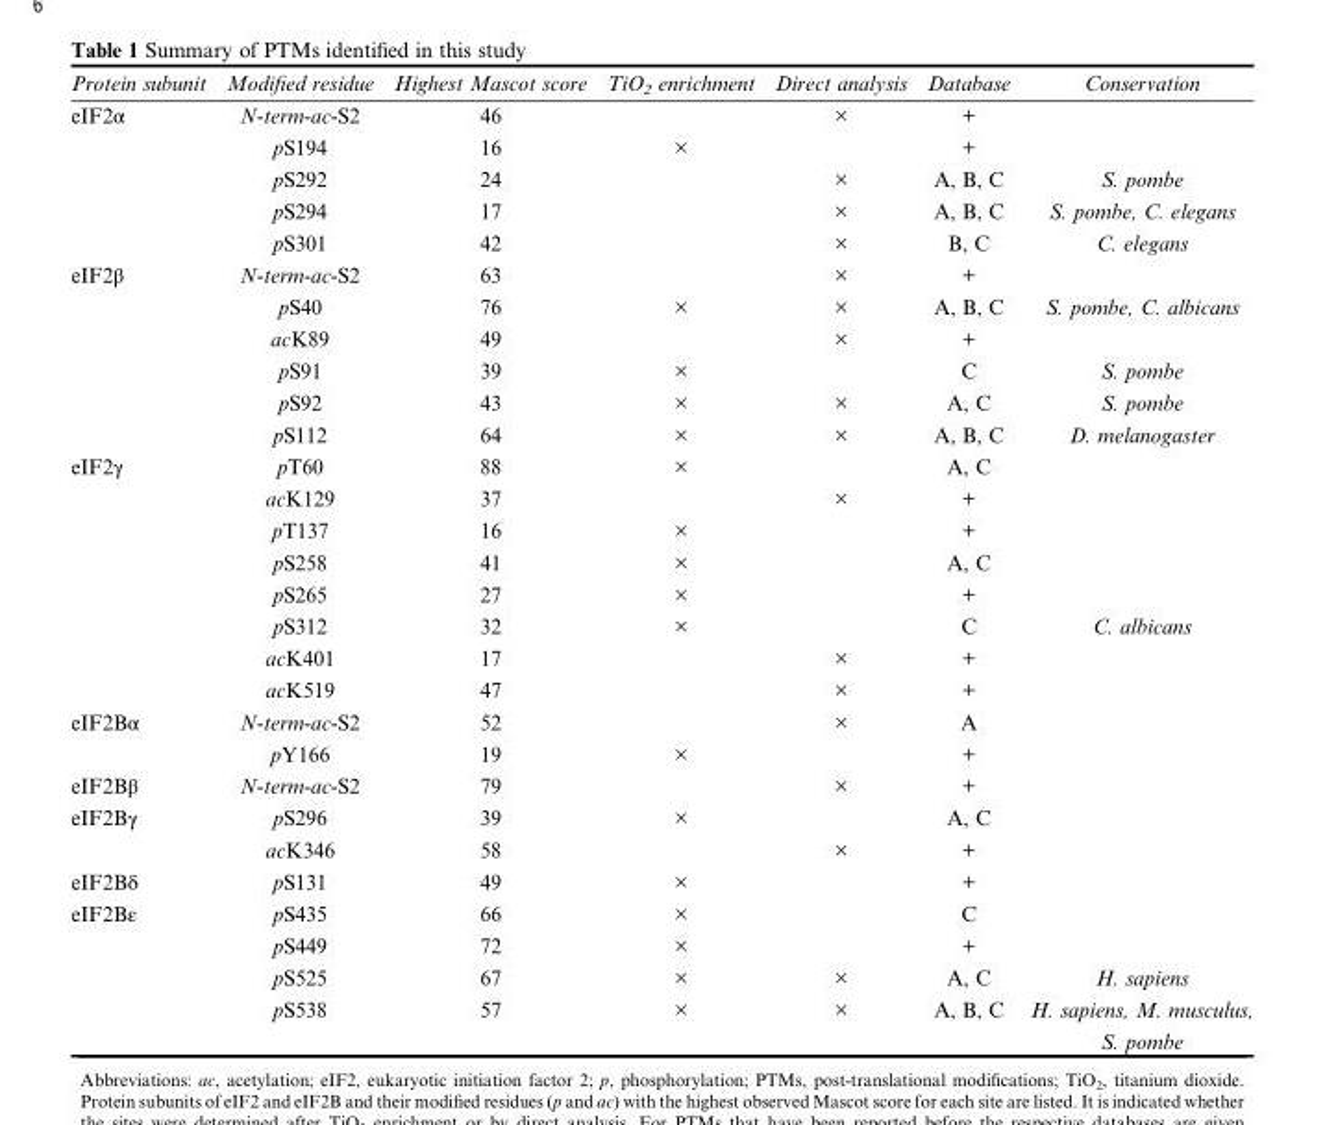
<table><thead><tr><td>Protein subunit</td><td>Modified residue</td><td>Highest Mascot score</td><td>TiO<sub>2</sub> enrichment</td><td>Direct analysis</td><td>Database</td><td>Conservation</td></tr></thead><tbody><tr><td rowspan="5">eIF2α</td><td>N-term-ac-S2</td><td>46</td><td></td><td>×</td><td>+</td><td></td></tr><tr><td>pS194</td><td>16</td><td>×</td><td></td><td>+</td><td></td></tr><tr><td>pS292</td><td>24</td><td></td><td>×</td><td>A, B, C</td><td>S. pombe</td></tr><tr><td>pS294</td><td>17</td><td></td><td>×</td><td>A, B, C</td><td>S. pombe, C. elegans</td></tr><tr><td>pS301</td><td>42</td><td></td><td>×</td><td>B, C</td><td>C. elegans</td></tr><tr><td rowspan="6">eIF2β</td><td>N-term-ac-S2</td><td>63</td><td></td><td>×</td><td>+</td><td></td></tr><tr><td>pS40</td><td>76</td><td>×</td><td>×</td><td>A, B, C</td><td>S. pombe, C. albicans</td></tr><tr><td>acK89</td><td>49</td><td></td><td>×</td><td>+</td><td></td></tr><tr><td>pS91</td><td>39</td><td>×</td><td></td><td>C</td><td>S. pombe</td></tr><tr><td>pS92</td><td>43</td><td>×</td><td>×</td><td>A, C</td><td>S. pombe</td></tr><tr><td>pS112</td><td>64</td><td>×</td><td>×</td><td>A, B, C</td><td>D. melanogaster</td></tr><tr><td rowspan="8">eIF2γ</td><td>pT60</td><td>88</td><td>×</td><td></td><td>A, C</td><td></td></tr><tr><td>acK129</td><td>37</td><td></td><td>×</td><td>+</td><td></td></tr><tr><td>pT137</td><td>16</td><td>×</td><td></td><td>+</td><td></td></tr><tr><td>pS258</td><td>41</td><td>×</td><td></td><td>A, C</td><td></td></tr><tr><td>pS265</td><td>27</td><td>×</td><td></td><td>+</td><td></td></tr><tr><td>pS312</td><td>32</td><td>×</td><td></td><td>C</td><td>C. albicans</td></tr><tr><td>acK401</td><td>17</td><td></td><td>×</td><td>+</td><td></td></tr><tr><td>acK519</td><td>47</td><td></td><td>×</td><td>+</td><td></td></tr><tr><td rowspan="2">eIF2Bα</td><td>N-term-ac-S2</td><td>52</td><td></td><td>×</td><td>A</td><td></td></tr><tr><td>pY166</td><td>19</td><td>×</td><td></td><td>+</td><td></td></tr><tr><td>eIF2Bβ</td><td>N-term-ac-S2</td><td>79</td><td></td><td>×</td><td>+</td><td></td></tr><tr><td rowspan="2">eIF2Bγ</td><td>pS296</td><td>39</td><td>×</td><td></td><td>A, C</td><td></td></tr><tr><td>acK346</td><td>58</td><td></td><td>×</td><td>+</td><td></td></tr><tr><td>eIF2Bδ</td><td>pS131</td><td>49</td><td>×</td><td></td><td>+</td><td></td></tr><tr><td rowspan="4">eIF2Bε</td><td>pS435</td><td>66</td><td>×</td><td></td><td>C</td><td></td></tr><tr><td>pS449</td><td>72</td><td>×</td><td></td><td>+</td><td></td></tr><tr><td>pS525</td><td>67</td><td>×</td><td>×</td><td>A, C</td><td>H. sapiens</td></tr><tr><td>pS538</td><td>57</td><td>×</td><td>×</td><td>A, B, C</td><td>H. sapiens, M. musculus, S. pombe</td></tr></tbody></table>